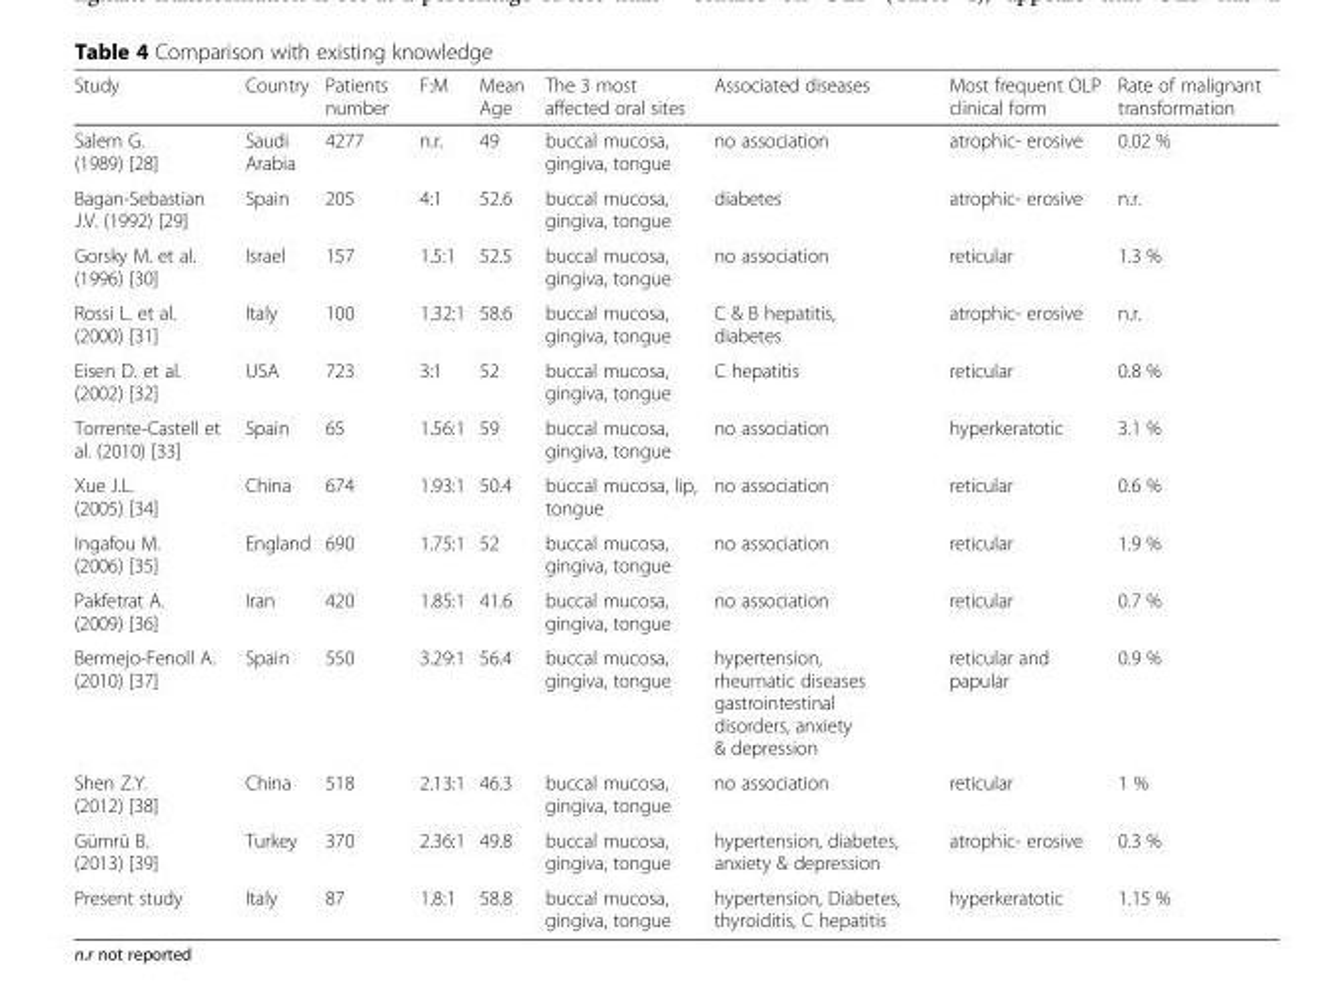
<table><thead><tr><td>Study</td><td>Country</td><td>Patients number</td><td>F:M</td><td>Mean Age</td><td>The 3 most affected oral sites</td><td>Associated diseases</td><td>Most frequent OLP clinical form</td><td>Rate of malignant transformation</td></tr></thead><tbody><tr><td>Salem G. (1989) [28]</td><td>Saudi Arabia</td><td>4277</td><td>n.r.</td><td>49</td><td>buccal mucosa, gingiva, tongue</td><td>no association</td><td>atrophic- erosive</td><td>0.02 %</td></tr><tr><td>Bagan-Sebastian J.V. (1992) [29]</td><td>Spain</td><td>205</td><td>4:1</td><td>52.6</td><td>buccal mucosa, gingiva, tongue</td><td>diabetes</td><td>atrophic- erosive</td><td>n.r.</td></tr><tr><td>Gorsky M. et al. (1996) [30]</td><td>Israel</td><td>157</td><td>1.5:1</td><td>52.5</td><td>buccal mucosa, gingiva, tongue</td><td>no association</td><td>reticular</td><td>1.3 %</td></tr><tr><td>Rossi L. et al. (2000) [31]</td><td>Italy</td><td>100</td><td>1.32:1</td><td>58.6</td><td>buccal mucosa, gingiva, tongue</td><td>C &amp; B hepatitis, diabetes</td><td>atrophic- erosive</td><td>n.r.</td></tr><tr><td>Eisen D. et al. (2002) [32]</td><td>USA</td><td>723</td><td>3:1</td><td>52</td><td>buccal mucosa, gingiva, tongue</td><td>C hepatitis</td><td>reticular</td><td>0.8 %</td></tr><tr><td>Torrente-Castell et al. (2010) [33]</td><td>Spain</td><td>65</td><td>1.56:1</td><td>59</td><td>buccal mucosa, gingiva, tongue</td><td>no association</td><td>hyperkeratotic</td><td>3.1 %</td></tr><tr><td>Xue J.L. (2005) [34]</td><td>China</td><td>674</td><td>1.93:1</td><td>50.4</td><td>buccal mucosa, lip, tongue</td><td>no association</td><td>reticular</td><td>0.6 %</td></tr><tr><td>Ingafou M. (2006) [35]</td><td>England</td><td>690</td><td>1.75:1</td><td>52</td><td>buccal mucosa, gingiva, tongue</td><td>no association</td><td>reticular</td><td>1.9 %</td></tr><tr><td>Pakfetrat A. (2009) [36]</td><td>Iran</td><td>420</td><td>1.85:1</td><td>41.6</td><td>buccal mucosa, gingiva, tongue</td><td>no association</td><td>reticular</td><td>0.7 %</td></tr><tr><td>Bermejo-Fenoll A. (2010) [37]</td><td>Spain</td><td>550</td><td>3.29:1</td><td>56.4</td><td>buccal mucosa, gingiva, tongue</td><td>hypertension, rheumatic diseases gastrointestinal disorders, anxiety &amp; depression</td><td>reticular and papular</td><td>0.9 %</td></tr><tr><td>Shen Z.Y. (2012) [38]</td><td>China</td><td>518</td><td>2.13:1</td><td>46.3</td><td>buccal mucosa, gingiva, tongue</td><td>no association</td><td>reticular</td><td>1 %</td></tr><tr><td>Gümrü B. (2013) [39]</td><td>Turkey</td><td>370</td><td>2.36:1</td><td>49.8</td><td>buccal mucosa, gingiva, tongue</td><td>hypertension, diabetes, anxiety &amp; depression</td><td>atrophic- erosive</td><td>0.3 %</td></tr><tr><td>Present study</td><td>Italy</td><td>87</td><td>1.8:1</td><td>58.8</td><td>buccal mucosa, gingiva, tongue</td><td>hypertension, Diabetes, thyroiditis, C hepatitis</td><td>hyperkeratotic</td><td>1.15 %</td></tr></tbody></table>